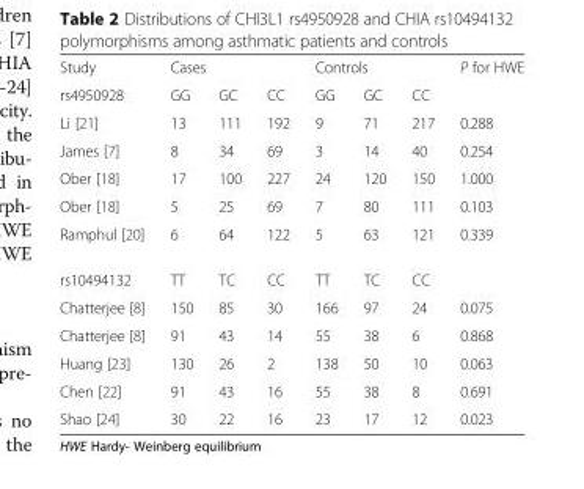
<table><tbody><tr><td>Study</td><td colspan="3">Cases</td><td colspan="3">Controls</td><td rowspan="2">P for HWE</td></tr><tr><td>rs4950928</td><td>GG</td><td>GC</td><td>CC</td><td>GG</td><td>GC</td><td>CC</td></tr><tr><td>Li [21]</td><td>13</td><td>111</td><td>192</td><td>9</td><td>71</td><td>217</td><td>0.288</td></tr><tr><td>James [7]</td><td>8</td><td>34</td><td>69</td><td>3</td><td>14</td><td>40</td><td>0.254</td></tr><tr><td>Ober [18]</td><td>17</td><td>100</td><td>227</td><td>24</td><td>120</td><td>150</td><td>1.000</td></tr><tr><td>Ober [18]</td><td>5</td><td>25</td><td>69</td><td>7</td><td>80</td><td>111</td><td>0.103</td></tr><tr><td>Ramphul [20]</td><td>6</td><td>64</td><td>122</td><td>5</td><td>63</td><td>121</td><td>0.339</td></tr><tr><td>rs10494132</td><td>TT</td><td>TC</td><td>CC</td><td>TT</td><td>TC</td><td>CC</td><td></td></tr><tr><td>Chatterjee [8]</td><td>150</td><td>85</td><td>30</td><td>166</td><td>97</td><td>24</td><td>0.075</td></tr><tr><td>Chatterjee [8]</td><td>91</td><td>43</td><td>14</td><td>55</td><td>38</td><td>6</td><td>0.868</td></tr><tr><td>Huang [23]</td><td>130</td><td>26</td><td>2</td><td>138</td><td>50</td><td>10</td><td>0.063</td></tr><tr><td>Chen [22]</td><td>91</td><td>43</td><td>16</td><td>55</td><td>38</td><td>8</td><td>0.691</td></tr><tr><td>Shao [24]</td><td>30</td><td>22</td><td>16</td><td>23</td><td>17</td><td>12</td><td>0.023</td></tr></tbody></table>